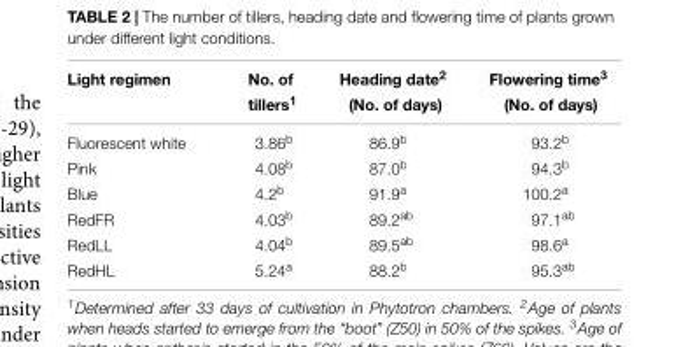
<table><thead><tr><td rowspan="2">Light regimen</td><td rowspan="2">No. of tillers<sup>1</sup></td><td rowspan="2">Heading date<sup>2</sup> (No. of days)</td><td rowspan="2">Flowering time<sup>3</sup> (No. of days)</td></tr><tr></tr></thead><tbody><tr><td>Fluorescent white</td><td>3.86b</td><td>86.9b</td><td>93.2b</td></tr><tr><td>Pink</td><td>4.08b</td><td>87.0b</td><td>94.3b</td></tr><tr><td>Blue</td><td>4.2b</td><td>91.9a</td><td>100.2a</td></tr><tr><td>RedFR</td><td>4.03b</td><td>89.2ab</td><td>97.1ab</td></tr><tr><td>RedLL</td><td>4.04b</td><td>89.5ab</td><td>98.6a</td></tr><tr><td>RedHL</td><td>5.24a</td><td>88.2b</td><td>95.3ab</td></tr></tbody></table>